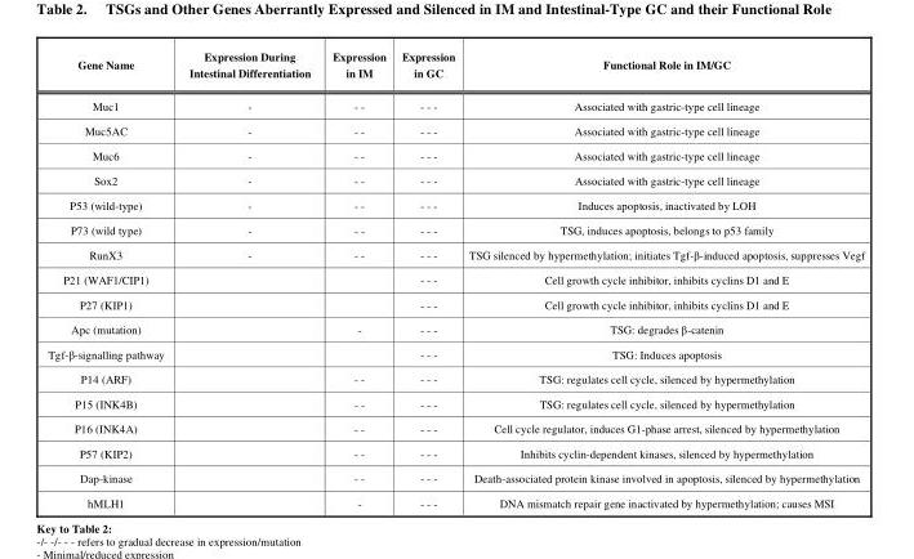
<table><thead><tr><td>Gene Name</td><td>Expression During Intestinal Differentiation</td><td>Expression in IM</td><td>Expression in GC</td><td>Functional Role in IM/GC</td></tr></thead><tbody><tr><td>Muc1</td><td>-</td><td>- -</td><td>- - -</td><td>Associated with gastric-type cell lineage</td></tr><tr><td>Muc5AC</td><td>-</td><td>- -</td><td>- - -</td><td>Associated with gastric-type cell lineage</td></tr><tr><td>Muc6</td><td>-</td><td>- -</td><td>- - -</td><td>Associated with gastric-type cell lineage</td></tr><tr><td>Sox2</td><td>-</td><td>- -</td><td>- - -</td><td>Associated with gastric-type cell lineage</td></tr><tr><td>P53 (wild-type)</td><td>-</td><td>- -</td><td>- - -</td><td>Induces apoptosis, inactivated by LOH</td></tr><tr><td>P73 (wild type)</td><td>-</td><td>- -</td><td>- - -</td><td>TSG, induces apoptosis, belongs to p53 family</td></tr><tr><td>RunX3</td><td>-</td><td>- -</td><td>- - -</td><td>TSG silenced by hypermethylation; initiates Tgf-β-induced apoptosis, suppresses Vegf</td></tr><tr><td>P21 (WAF1/CIP1)</td><td></td><td></td><td>- - -</td><td>Cell growth cycle inhibitor, inhibits cyclins D1 and E</td></tr><tr><td>P27 (KIP1)</td><td></td><td></td><td>- - -</td><td>Cell growth cycle inhibitor, inhibits cyclins D1 and E</td></tr><tr><td>Apc (mutation)</td><td></td><td>-</td><td>- - -</td><td>TSG: degrades β-catenin</td></tr><tr><td>Tgf-β-signalling pathway</td><td></td><td></td><td>- - -</td><td>TSG: Induces apoptosis</td></tr><tr><td>P14 (ARF)</td><td></td><td>- -</td><td>- - -</td><td>TSG: regulates cell cycle, silenced by hypermethylation</td></tr><tr><td>P15 (INK4B)</td><td></td><td>- -</td><td>- - -</td><td>TSG: regulates cell cycle, silenced by hypermethylation</td></tr><tr><td>P16 (INK4A)</td><td></td><td>- -</td><td>- - -</td><td>Cell cycle regulator, induces G1-phase arrest, silenced by hypermethylation</td></tr><tr><td>P57 (KIP2)</td><td></td><td>- -</td><td>- - -</td><td>Inhibits cyclin-dependent kinases, silenced by hypermethylation</td></tr><tr><td>Dap-kinase</td><td></td><td>- -</td><td>- - -</td><td>Death-associated protein kinase involved in apoptosis, silenced by hypermethylation</td></tr><tr><td>hMLH1</td><td></td><td>-</td><td>- - -</td><td>DNA mismatch repair gene inactivated by hypermethylation; causes MSI</td></tr></tbody></table>